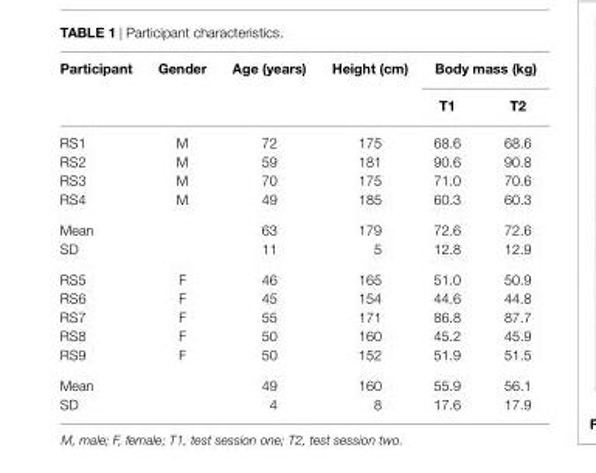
<table><thead><tr><td rowspan="2">Participant</td><td rowspan="2">Gender</td><td rowspan="2">Age (years)</td><td rowspan="2">Height (cm)</td><td colspan="2">Body mass (kg)</td></tr><tr><td>T1</td><td>T2</td></tr></thead><tbody><tr><td>RS1</td><td>M</td><td>72</td><td>175</td><td>68.6</td><td>68.6</td></tr><tr><td>RS2</td><td>M</td><td>59</td><td>181</td><td>90.6</td><td>90.8</td></tr><tr><td>RS3</td><td>M</td><td>70</td><td>175</td><td>71.0</td><td>70.6</td></tr><tr><td>RS4</td><td>M</td><td>49</td><td>185</td><td>60.3</td><td>60.3</td></tr><tr><td>Mean</td><td></td><td>63</td><td>179</td><td>72.6</td><td>72.6</td></tr><tr><td>SD</td><td></td><td>11</td><td>5</td><td>12.8</td><td>12.9</td></tr><tr><td>RS5</td><td>F</td><td>46</td><td>165</td><td>51.0</td><td>50.9</td></tr><tr><td>RS6</td><td>F</td><td>45</td><td>154</td><td>44.6</td><td>44.8</td></tr><tr><td>RS7</td><td>F</td><td>55</td><td>171</td><td>86.8</td><td>87.7</td></tr><tr><td>RS8</td><td>F</td><td>50</td><td>160</td><td>45.2</td><td>45.9</td></tr><tr><td>RS9</td><td>F</td><td>50</td><td>152</td><td>51.9</td><td>51.5</td></tr><tr><td>Mean</td><td></td><td>49</td><td>160</td><td>55.9</td><td>56.1</td></tr><tr><td>SD</td><td></td><td>4</td><td>8</td><td>17.6</td><td>17.9</td></tr></tbody></table>